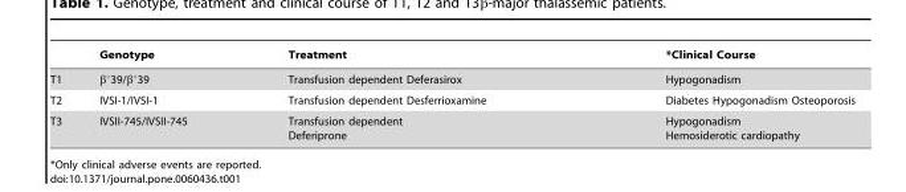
<table><thead><tr><td></td><td>Genotype</td><td>Treatment</td><td>*Clinical Course</td></tr></thead><tbody><tr><td>T1</td><td>β°39/β°39</td><td>Transfusion dependent Deferasirox</td><td>Hypogonadism</td></tr><tr><td>T2</td><td>IVSI-1/IVSI-1</td><td>Transfusion dependent Desferrioxamine</td><td>Diabetes Hypogonadism Osteoporosis</td></tr><tr><td>T3</td><td>IVSII-745/IVSII-745</td><td>Transfusion dependent Deferiprone</td><td>Hypogonadism Hemosiderotic cardiopathy</td></tr></tbody></table>